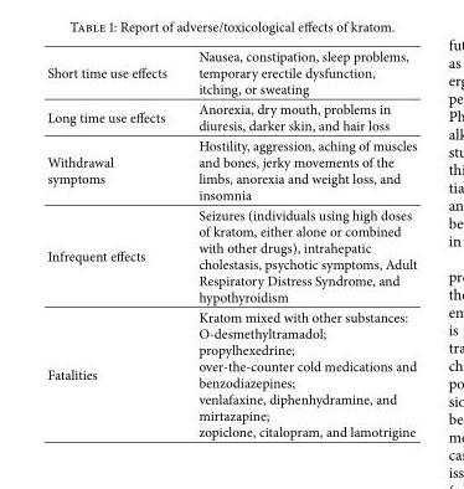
<table><tbody><tr><td>Short time use effects</td><td>Nausea, constipation, sleep problems, temporary erectile dysfunction, itching, or sweating</td></tr><tr><td>Long time use effects</td><td>Anorexia, dry mouth, problems in diuresis, darker skin, and hair loss</td></tr><tr><td>Withdrawal symptoms</td><td>Hostility, aggression, aching of muscles and bones, jerky movements of the limbs, anorexia and weight loss, and insomnia</td></tr><tr><td>Infrequent effects</td><td>Seizures (individuals using high doses of kratom, either alone or combined with other drugs), intrahepatic cholestasis, psychotic symptoms, Adult Respiratory Distress Syndrome, and hypothyroidism</td></tr><tr><td>Fatalities</td><td>Kratom mixed with other substances: O-desmethyltramadol; propylhexedrine; over-the-counter cold medications and benzodiazepines; venlafaxine, diphenhydramine, and mirtazapine; zopiclone, citalopram, and lamotrigine</td></tr></tbody></table>